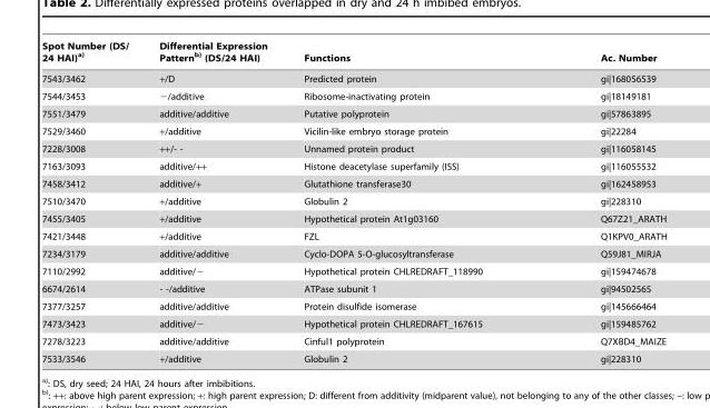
<table><thead><tr><td>Spot Number (DS/ 24 HAI)a)</td><td>Differential Expression Patternb) (DS/24 HAI)</td><td>Functions</td><td>Ac. Number</td></tr></thead><tbody><tr><td>7543/3462</td><td>+/D</td><td>Predicted protein</td><td>gi|168056539</td></tr><tr><td>7544/3453</td><td>−/additive</td><td>Ribosome-inactivating protein</td><td>gi|18149181</td></tr><tr><td>7551/3479</td><td>additive/additive</td><td>Putative polyprotein</td><td>gi|57863895</td></tr><tr><td>7529/3460</td><td>+/additive</td><td>Vicilin-like embryo storage protein</td><td>gi|22284</td></tr><tr><td>7228/3008</td><td>++/- -</td><td>Unnamed protein product</td><td>gi|116058145</td></tr><tr><td>7163/3093</td><td>additive/++</td><td>Histone deacetylase superfamily (ISS)</td><td>gi|116055532</td></tr><tr><td>7458/3412</td><td>additive/+</td><td>Glutathione transferase30</td><td>gi|162458953</td></tr><tr><td>7510/3470</td><td>+/additive</td><td>Globulin 2</td><td>gi|228310</td></tr><tr><td>7455/3405</td><td>+/additive</td><td>Hypothetical protein At1g03160</td><td>Q67Z21_ARATH</td></tr><tr><td>7421/3448</td><td>+/additive</td><td>FZL</td><td>Q1KPV0_ARATH</td></tr><tr><td>7234/3179</td><td>additive/additive</td><td>Cyclo-DOPA 5-O-glucosyltransferase</td><td>Q59J81_MIRJA</td></tr><tr><td>7110/2992</td><td>additive/−</td><td>Hypothetical protein CHLREDRAFT_118990</td><td>gi|159474678</td></tr><tr><td>6674/2614</td><td>- -/additive</td><td>ATPase subunit 1</td><td>gi|94502565</td></tr><tr><td>7377/3257</td><td>additive/additive</td><td>Protein disulfide isomerase</td><td>gi|145666464</td></tr><tr><td>7473/3423</td><td>additive/−</td><td>Hypothetical protein CHLREDRAFT_167615</td><td>gi|159485762</td></tr><tr><td>7278/3223</td><td>additive/additive</td><td>Cinful1 polyprotein</td><td>Q7XBD4_MAIZE</td></tr><tr><td>7533/3546</td><td>+/additive</td><td>Globulin 2</td><td>gi|228310</td></tr></tbody></table>